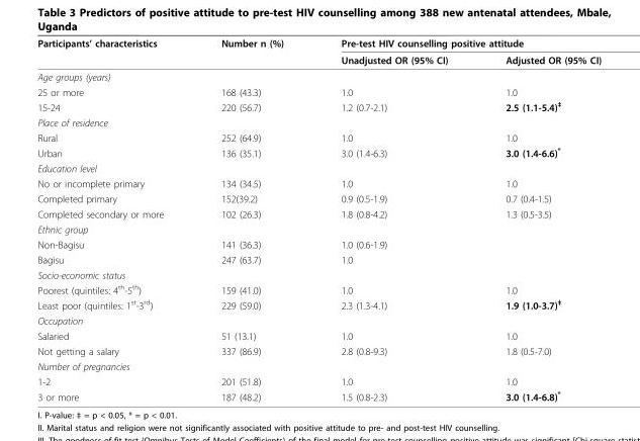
<table><thead><tr><td rowspan="2">Participants’ characteristics</td><td rowspan="2">Number n (%)</td><td colspan="2">Pre-test HIV counselling positive attitude</td></tr><tr><td>Unadjusted OR (95% CI)</td><td>Adjusted OR (95% CI)</td></tr></thead><tbody><tr><td colspan="4">Age groups (years)</td></tr><tr><td>25 or more</td><td>168 (43.3)</td><td>1.0</td><td>1.0</td></tr><tr><td>15-24</td><td>220 (56.7)</td><td>1.2 (0.7-2.1)</td><td>2.5 (1.1-5.4)<sup>‡</sup></td></tr><tr><td colspan="4">Place of residence</td></tr><tr><td>Rural</td><td>252 (64.9)</td><td>1.0</td><td>1.0</td></tr><tr><td>Urban</td><td>136 (35.1)</td><td>3.0 (1.4-6.3)</td><td>3.0 (1.4-6.6)*</td></tr><tr><td colspan="4">Education level</td></tr><tr><td>No or incomplete primary</td><td>134 (34.5)</td><td>1.0</td><td>1.0</td></tr><tr><td>Completed primary</td><td>152(39.2)</td><td>0.9 (0.5-1.9)</td><td>0.7 (0.4-1.5)</td></tr><tr><td>Completed secondary or more</td><td>102 (26.3)</td><td>1.8 (0.8-4.2)</td><td>1.3 (0.5-3.5)</td></tr><tr><td colspan="4">Ethnic group</td></tr><tr><td>Non-Bagisu</td><td>141 (36.3)</td><td>1.0 (0.6-1.9)</td><td></td></tr><tr><td>Bagisu</td><td>247 (63.7)</td><td>1.0</td><td></td></tr><tr><td colspan="4">Socio-economic status</td></tr><tr><td>Poorest (quintiles: 4<sup>th</sup>-5<sup>th</sup>)</td><td>159 (41.0)</td><td>1.0</td><td>1.0</td></tr><tr><td>Least poor (quintiles: 1<sup>st</sup>-3<sup>rd</sup>)</td><td>229 (59.0)</td><td>2.3 (1.3-4.1)</td><td>1.9 (1.0-3.7)<sup>‡</sup></td></tr><tr><td colspan="4">Occupation</td></tr><tr><td>Salaried</td><td>51 (13.1)</td><td>1.0</td><td>1.0</td></tr><tr><td>Not getting a salary</td><td>337 (86.9)</td><td>2.8 (0.8-9.3)</td><td>1.8 (0.5-7.0)</td></tr><tr><td colspan="4">Number of pregnancies</td></tr><tr><td>1-2</td><td>201 (51.8)</td><td>1.0</td><td>1.0</td></tr><tr><td>3 or more</td><td>187 (48.2)</td><td>1.5 (0.8-2.3)</td><td>3.0 (1.4-6.8)*</td></tr></tbody></table>